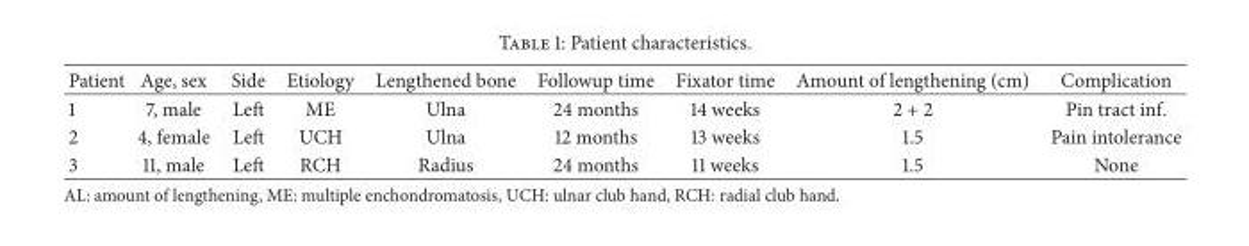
<table><thead><tr><td>Patient</td><td>Age, sex</td><td>Side</td><td>Etiology</td><td>Lengthened bone</td><td>Followup time</td><td>Fixator time</td><td>Amount of lengthening (cm)</td><td>Complication</td></tr></thead><tbody><tr><td>1</td><td>7, male</td><td>Left</td><td>ME</td><td>Ulna</td><td>24 months</td><td>14 weeks</td><td>2 + 2</td><td>Pin tract inf.</td></tr><tr><td>2</td><td>4, female</td><td>Left</td><td>UCH</td><td>Ulna</td><td>12 months</td><td>13 weeks</td><td>1.5</td><td>Pain intolerance</td></tr><tr><td>3</td><td>11, male</td><td>Left</td><td>RCH</td><td>Radius</td><td>24 months</td><td>11 weeks</td><td>1.5</td><td>None</td></tr></tbody></table>